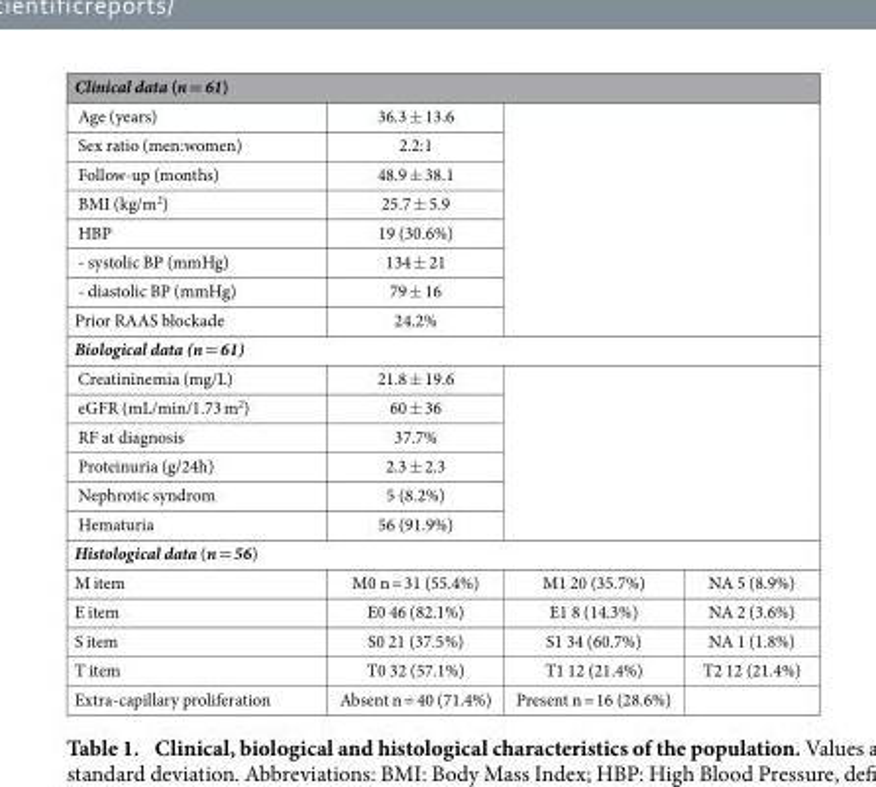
<table><thead><tr><td colspan="4">Clinical data (n = 61)</td></tr></thead><tbody><tr><td>Age (years)</td><td>36.3 ± 13.6</td><td colspan="2"></td></tr><tr><td>Sex ratio (men:women)</td><td>2.2:1</td><td colspan="2"></td></tr><tr><td>Follow-up (months)</td><td>48.9 ± 38.1</td><td colspan="2"></td></tr><tr><td>BMI (kg/m<sup>2</sup>)</td><td>25.7 ± 5.9</td><td colspan="2"></td></tr><tr><td>HBP</td><td>19 (30.6%)</td><td colspan="2"></td></tr><tr><td>- systolic BP (mmHg)</td><td>134 ± 21</td><td colspan="2"></td></tr><tr><td>- diastolic BP (mmHg)</td><td>79 ± 16</td><td colspan="2"></td></tr><tr><td>Prior RAAS blockade</td><td>24.2%</td><td colspan="2"></td></tr><tr><td colspan="4">Biological data (n = 61)</td></tr><tr><td>Creatininemia (mg/L)</td><td>21.8 ± 19.6</td><td colspan="2"></td></tr><tr><td>eGFR (mL/min/1.73 m<sup>2</sup>)</td><td>60 ± 36</td><td colspan="2"></td></tr><tr><td>RF at diagnosis</td><td>37.7%</td><td colspan="2"></td></tr><tr><td>Proteinuria (g/24h)</td><td>2.3 ± 2.3</td><td colspan="2"></td></tr><tr><td>Nephrotic syndrom</td><td>5 (8.2%)</td><td colspan="2"></td></tr><tr><td>Hematuria</td><td>56 (91.9%)</td><td colspan="2"></td></tr><tr><td colspan="4">Histological data (n = 56)</td></tr><tr><td>M item</td><td>M0 n = 31 (55.4%)</td><td>M1 20 (35.7%)</td><td>NA 5 (8.9%)</td></tr><tr><td>E item</td><td>E0 46 (82.1%)</td><td>E1 8 (14.3%)</td><td>NA 2 (3.6%)</td></tr><tr><td>S item</td><td>S0 21 (37.5%)</td><td>S1 34 (60.7%)</td><td>NA 1 (1.8%)</td></tr><tr><td>T item</td><td>T0 32 (57.1%)</td><td>T1 12 (21.4%)</td><td>T2 12 (21.4%)</td></tr><tr><td>Extra-capillary proliferation</td><td>Absent n = 40 (71.4%)</td><td>Present n = 16 (28.6%)</td><td></td></tr></tbody></table>